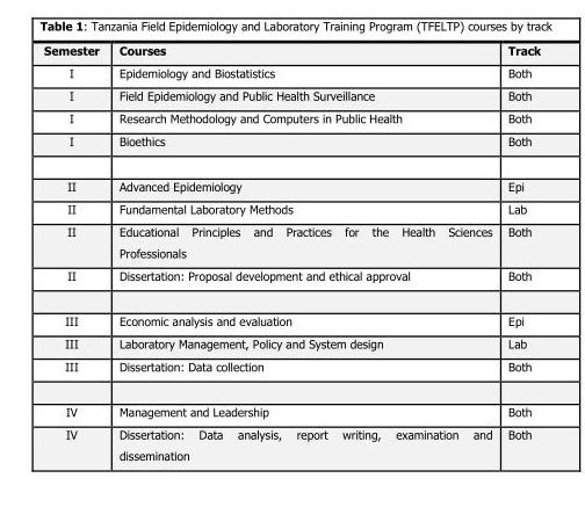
<table><thead><tr><td>Semester</td><td>Courses</td><td>Track</td></tr></thead><tbody><tr><td>I</td><td>Epidemiology and Biostatistics</td><td>Both</td></tr><tr><td>I</td><td>Field Epidemiology and Public Health Surveillance</td><td>Both</td></tr><tr><td>I</td><td>Research Methodology and Computers in Public Health</td><td>Both</td></tr><tr><td>I</td><td>Bioethics</td><td>Both</td></tr><tr><td>II</td><td>Advanced Epidemiology</td><td>Epi</td></tr><tr><td>II</td><td>Fundamental Laboratory Methods</td><td>Lab</td></tr><tr><td>II</td><td>Educational Principles and Practices for the Health Sciences Professionals</td><td>Both</td></tr><tr><td>II</td><td>Dissertation: Proposal development and ethical approval</td><td>Both</td></tr><tr><td>III</td><td>Economic analysis and evaluation</td><td>Epi</td></tr><tr><td>III</td><td>Laboratory Management, Policy and System design</td><td>Lab</td></tr><tr><td>III</td><td>Dissertation: Data collection</td><td>Both</td></tr><tr><td>IV</td><td>Management and Leadership</td><td>Both</td></tr><tr><td>IV</td><td>Dissertation: Data analysis, report writing, examination and dissemination</td><td>Both</td></tr></tbody></table>